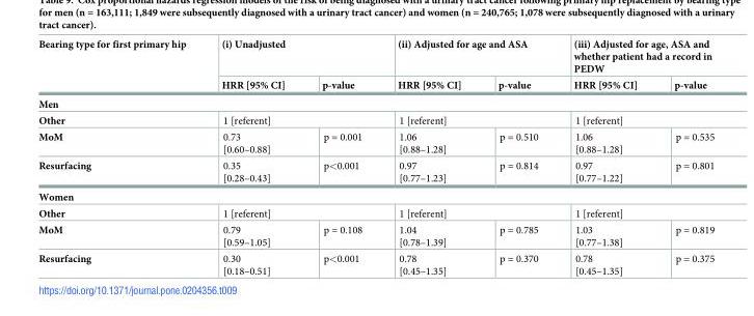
<table><thead><tr><td rowspan="2">Bearing type for first primary hip</td><td colspan="2">(i) Unadjusted</td><td colspan="2">(ii) Adjusted for age and ASA</td><td colspan="2">(iii) Adjusted for age, ASA and whether patient had a record in PEDW</td></tr><tr><td>HRR [95% CI]</td><td>p-value</td><td>HRR [95% CI]</td><td>p-value</td><td>HRR [95% CI]</td><td>p-value</td></tr></thead><tbody><tr><td colspan="7">Men</td></tr><tr><td>Other</td><td colspan="2">1 [referent]</td><td colspan="2">1 [referent]</td><td colspan="2">1 [referent]</td></tr><tr><td>MoM</td><td>0.73 [0.60–0.88]</td><td>p = 0.001</td><td>1.06 [0.88–1.28]</td><td>p = 0.510</td><td>1.06 [0.88–1.28]</td><td>p = 0.535</td></tr><tr><td>Resurfacing</td><td>0.35 [0.28–0.43]</td><td>p&lt;0.001</td><td>0.97 [0.77–1.23]</td><td>p = 0.814</td><td>0.97 [0.77–1.22]</td><td>p = 0.801</td></tr><tr><td colspan="7">Women</td></tr><tr><td>Other</td><td colspan="2">1 [referent]</td><td colspan="2">1 [referent]</td><td colspan="2">1 [referent]</td></tr><tr><td>MoM</td><td>0.79 [0.59–1.05]</td><td>p = 0.108</td><td>1.04 [0.78–1.39]</td><td>p = 0.785</td><td>1.03 [0.77–1.38]</td><td>p = 0.819</td></tr><tr><td>Resurfacing</td><td>0.30 [0.18–0.51]</td><td>p&lt;0.001</td><td>0.78 [0.45–1.35]</td><td>p = 0.370</td><td>0.78 [0.45–1.35]</td><td>p = 0.375</td></tr></tbody></table>